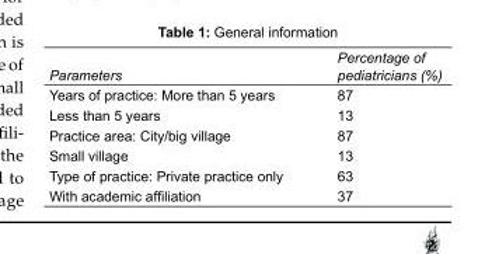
<table><tbody><tr><td>Parameters</td><td>Percentage of pediatricians (%)</td></tr><tr><td>Years of practice: More than 5 years</td><td>87</td></tr><tr><td>Less than 5 years</td><td>13</td></tr><tr><td>Practice area: City/big village</td><td>87</td></tr><tr><td>Small village</td><td>13</td></tr><tr><td>Type of practice: Private practice only</td><td>63</td></tr><tr><td>With academic affiliation</td><td>37</td></tr></tbody></table>